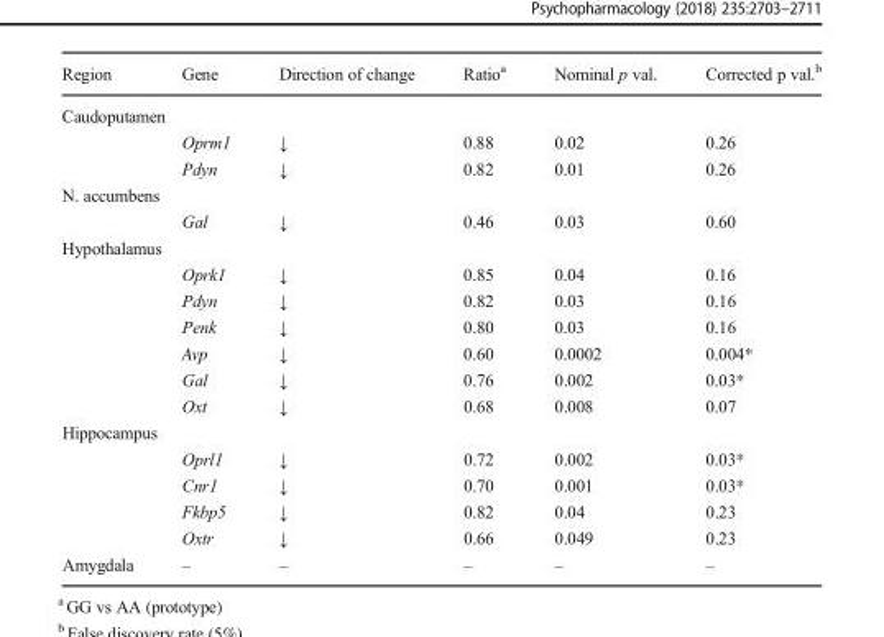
<table><thead><tr><td>Region</td><td>Gene</td><td>Direction of change</td><td>Ratio<sup>a</sup></td><td>Nominal p val.</td><td>Corrected p val.<sup>b</sup></td></tr></thead><tbody><tr><td colspan="6">Caudoputamen</td></tr><tr><td rowspan="2"></td><td>Oprm1</td><td>↓</td><td>0.88</td><td>0.02</td><td>0.26</td></tr><tr><td>Pdyn</td><td>↓</td><td>0.82</td><td>0.01</td><td>0.26</td></tr><tr><td colspan="6">N. accumbens</td></tr><tr><td></td><td>Gal</td><td>↓</td><td>0.46</td><td>0.03</td><td>0.60</td></tr><tr><td colspan="6">Hypothalamus</td></tr><tr><td rowspan="6"></td><td>Oprk1</td><td>↓</td><td>0.85</td><td>0.04</td><td>0.16</td></tr><tr><td>Pdyn</td><td>↓</td><td>0.82</td><td>0.03</td><td>0.16</td></tr><tr><td>Penk</td><td>↓</td><td>0.80</td><td>0.03</td><td>0.16</td></tr><tr><td>Avp</td><td>↓</td><td>0.60</td><td>0.0002</td><td>0.004*</td></tr><tr><td>Gal</td><td>↓</td><td>0.76</td><td>0.002</td><td>0.03*</td></tr><tr><td>Oxt</td><td>↓</td><td>0.68</td><td>0.008</td><td>0.07</td></tr><tr><td colspan="6">Hippocampus</td></tr><tr><td rowspan="4"></td><td>Oprl1</td><td>↓</td><td>0.72</td><td>0.002</td><td>0.03*</td></tr><tr><td>Cnr1</td><td>↓</td><td>0.70</td><td>0.001</td><td>0.03*</td></tr><tr><td>Fkbp5</td><td>↓</td><td>0.82</td><td>0.04</td><td>0.23</td></tr><tr><td>Oxtr</td><td>↓</td><td>0.66</td><td>0.049</td><td>0.23</td></tr><tr><td>Amygdala</td><td>–</td><td>–</td><td>–</td><td>–</td><td>–</td></tr></tbody></table>